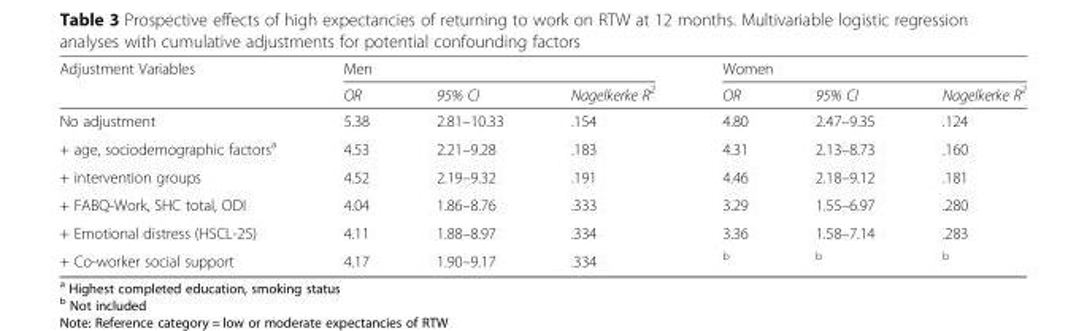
<table><thead><tr><td rowspan="2">Adjustment Variables</td><td colspan="3">Men</td><td colspan="3">Women</td></tr><tr><td>OR</td><td>95% CI</td><td>Nagelkerke R<sup>2</sup></td><td>OR</td><td>95% CI</td><td>Nagelkerke R<sup>2</sup></td></tr></thead><tbody><tr><td>No adjustment</td><td>5.38</td><td>2.81–10.33</td><td>.154</td><td>4.80</td><td>2.47–9.35</td><td>.124</td></tr><tr><td>+ age, sociodemographic factors<sup>a</sup></td><td>4.53</td><td>2.21–9.28</td><td>.183</td><td>4.31</td><td>2.13–8.73</td><td>.160</td></tr><tr><td>+ intervention groups</td><td>4.52</td><td>2.19–9.32</td><td>.191</td><td>4.46</td><td>2.18–9.12</td><td>.181</td></tr><tr><td>+ FABQ-Work, SHC total, ODI</td><td>4.04</td><td>1.86–8.76</td><td>.333</td><td>3.29</td><td>1.55–6.97</td><td>.280</td></tr><tr><td>+ Emotional distress (HSCL-25)</td><td>4.11</td><td>1.88–8.97</td><td>.334</td><td>3.36</td><td>1.58–7.14</td><td>.283</td></tr><tr><td>+ Co-worker social support</td><td>4.17</td><td>1.90–9.17</td><td>.334</td><td><sup>b</sup></td><td><sup>b</sup></td><td><sup>b</sup></td></tr></tbody></table>